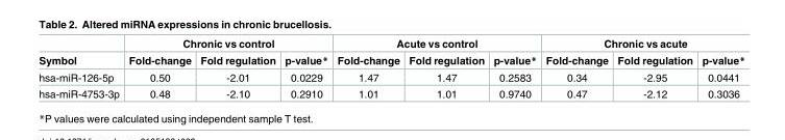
<table><thead><tr><td rowspan="2">Symbol</td><td colspan="3">Chronic vs control</td><td colspan="3">Acute vs control</td><td colspan="3">Chronic vs acute</td></tr><tr><td>Fold-change</td><td>Fold regulation</td><td>p-value*</td><td>Fold-change</td><td>Fold regulation</td><td>p-value*</td><td>Fold-change</td><td>Fold regulation</td><td>p-value*</td></tr></thead><tbody><tr><td>hsa-miR-126-5p</td><td>0.50</td><td>-2.01</td><td>0.0229</td><td>1.47</td><td>1.47</td><td>0.2583</td><td>0.34</td><td>-2.95</td><td>0.0441</td></tr><tr><td>hsa-miR-4753-3p</td><td>0.48</td><td>-2.10</td><td>0.2910</td><td>1.01</td><td>1.01</td><td>0.9740</td><td>0.47</td><td>-2.12</td><td>0.3036</td></tr></tbody></table>